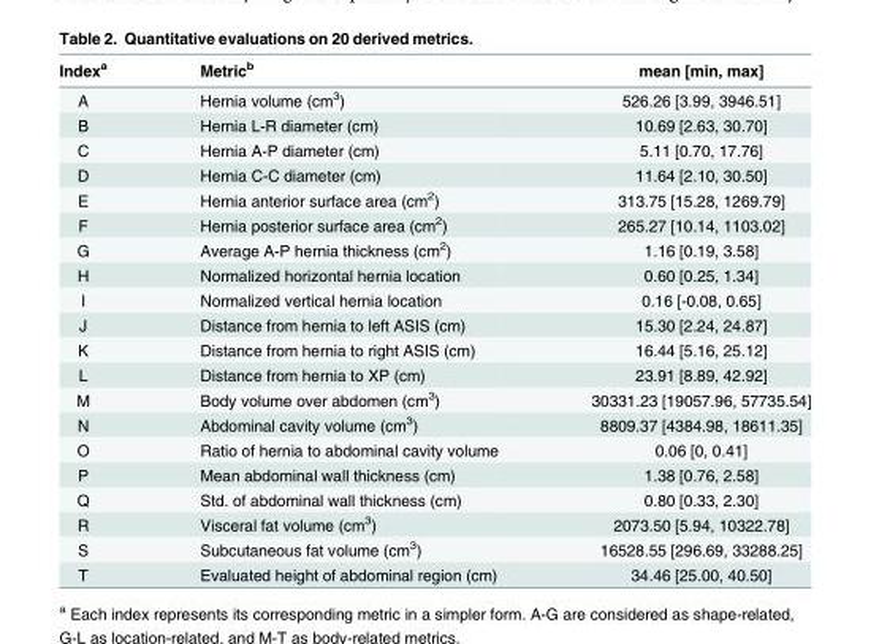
<table><thead><tr><td>Index<sup>a</sup></td><td>Metric<sup>b</sup></td><td>mean [min, max]</td></tr></thead><tbody><tr><td>A</td><td>Hernia volume (cm<sup>3</sup>)</td><td>526.26 [3.99, 3946.51]</td></tr><tr><td>B</td><td>Hernia L-R diameter (cm)</td><td>10.69 [2.63, 30.70]</td></tr><tr><td>C</td><td>Hernia A-P diameter (cm)</td><td>5.11 [0.70, 17.76]</td></tr><tr><td>D</td><td>Hernia C-C diameter (cm)</td><td>11.64 [2.10, 30.50]</td></tr><tr><td>E</td><td>Hernia anterior surface area (cm<sup>2</sup>)</td><td>313.75 [15.28, 1269.79]</td></tr><tr><td>F</td><td>Hernia posterior surface area (cm<sup>2</sup>)</td><td>265.27 [10.14, 1103.02]</td></tr><tr><td>G</td><td>Average A-P hernia thickness (cm<sup>2</sup>)</td><td>1.16 [0.19, 3.58]</td></tr><tr><td>H</td><td>Normalized horizontal hernia location</td><td>0.60 [0.25, 1.34]</td></tr><tr><td>I</td><td>Normalized vertical hernia location</td><td>0.16 [-0.08, 0.65]</td></tr><tr><td>J</td><td>Distance from hernia to left ASIS (cm)</td><td>15.30 [2.24, 24.87]</td></tr><tr><td>K</td><td>Distance from hernia to right ASIS (cm)</td><td>16.44 [5.16, 25.12]</td></tr><tr><td>L</td><td>Distance from hernia to XP (cm)</td><td>23.91 [8.89, 42.92]</td></tr><tr><td>M</td><td>Body volume over abdomen (cm<sup>3</sup>)</td><td>30331.23 [19057.96, 57735.54]</td></tr><tr><td>N</td><td>Abdominal cavity volume (cm<sup>3</sup>)</td><td>8809.37 [4384.98, 18611.35]</td></tr><tr><td>O</td><td>Ratio of hernia to abdominal cavity volume</td><td>0.06 [0, 0.41]</td></tr><tr><td>P</td><td>Mean abdominal wall thickness (cm)</td><td>1.38 [0.76, 2.58]</td></tr><tr><td>Q</td><td>Std. of abdominal wall thickness (cm)</td><td>0.80 [0.33, 2.30]</td></tr><tr><td>R</td><td>Visceral fat volume (cm<sup>3</sup>)</td><td>2073.50 [5.94, 10322.78]</td></tr><tr><td>S</td><td>Subcutaneous fat volume (cm<sup>3</sup>)</td><td>16528.55 [296.69, 33288.25]</td></tr><tr><td>T</td><td>Evaluated height of abdominal region (cm)</td><td>34.46 [25.00, 40.50]</td></tr></tbody></table>